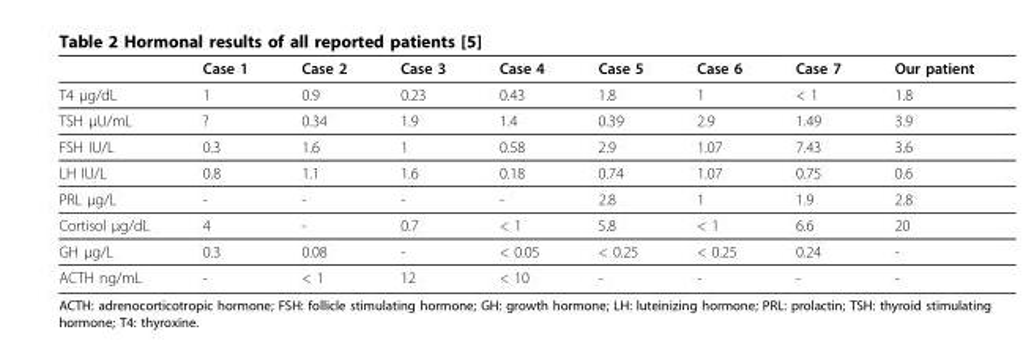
<table><thead><tr><td></td><td>Case 1</td><td>Case 2</td><td>Case 3</td><td>Case 4</td><td>Case 5</td><td>Case 6</td><td>Case 7</td><td>Our patient</td></tr></thead><tbody><tr><td>T4 μg/dL</td><td>1</td><td>0.9</td><td>0.23</td><td>0.43</td><td>1.8</td><td>1</td><td>&lt; 1</td><td>1.8</td></tr><tr><td>TSH μU/mL</td><td>?</td><td>0.34</td><td>1.9</td><td>1.4</td><td>0.39</td><td>2.9</td><td>1.49</td><td>3.9</td></tr><tr><td>FSH IU/L</td><td>0.3</td><td>1.6</td><td>1</td><td>0.58</td><td>2.9</td><td>1.07</td><td>7.43</td><td>3.6</td></tr><tr><td>LH IU/L</td><td>0.8</td><td>1.1</td><td>1.6</td><td>0.18</td><td>0.74</td><td>1.07</td><td>0.75</td><td>0.6</td></tr><tr><td>PRL μg/L</td><td>-</td><td>-</td><td>-</td><td>-</td><td>2.8</td><td>1</td><td>1.9</td><td>2.8</td></tr><tr><td>Cortisol μg/dL</td><td>4</td><td>-</td><td>0.7</td><td>&lt; 1</td><td>5.8</td><td>&lt; 1</td><td>6.6</td><td>20</td></tr><tr><td>GH μg/L</td><td>0.3</td><td>0.08</td><td>-</td><td>&lt; 0.05</td><td>&lt; 0.25</td><td>&lt; 0.25</td><td>0.24</td><td>-</td></tr><tr><td>ACTH ng/mL</td><td>-</td><td>&lt; 1</td><td>12</td><td>&lt; 10</td><td>-</td><td>-</td><td>-</td><td>-</td></tr></tbody></table>